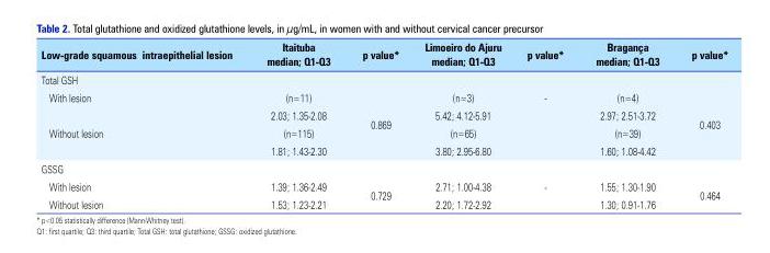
<table><thead><tr><td rowspan="2">Low-grade squamous intraepithelial lesion</td><td rowspan="2">Itaituba median; Q1-Q3</td><td rowspan="2">p value*</td><td rowspan="2">Limoeiro do Ajuru median; Q1-Q3</td><td rowspan="2">p value*</td><td rowspan="2">Bragança median; Q1-Q3</td><td rowspan="2">p value*</td></tr><tr></tr></thead><tbody><tr><td colspan="7">Total GSH</td></tr><tr><td rowspan="2">With lesion</td><td>(n=11)</td><td rowspan="4">0.869</td><td>(n=3)</td><td rowspan="2">-</td><td>(n=4)</td><td rowspan="4">0.403</td></tr><tr><td>2.03; 1.35-2.08</td><td>5.42; 4.12-5.91</td><td>2.97; 2.51-3.72</td></tr><tr><td rowspan="2">Without lesion</td><td>(n=115)</td><td>(n=65)</td><td rowspan="2"></td><td>(n=39)</td></tr><tr><td>1.81; 1.43-2.30</td><td>3.80; 2.95-6.80</td><td>1.60; 1.08-4.42</td></tr><tr><td colspan="7">GSSG</td></tr><tr><td>With lesion</td><td>1.39; 1.36-2.49</td><td rowspan="2">0.729</td><td>2.71; 1.00-4.38</td><td>-</td><td>1.55; 1.30-1.90</td><td rowspan="2">0.464</td></tr><tr><td>Without lesion</td><td>1.53; 1.23-2.21</td><td>2.20; 1.72-2.92</td><td></td><td>1.30; 0.91-1.76</td></tr></tbody></table>